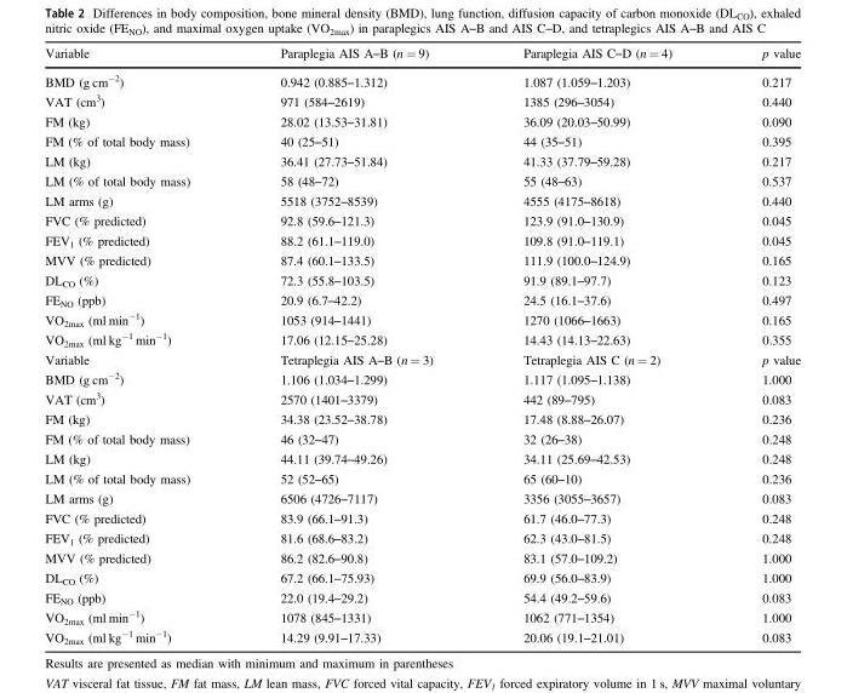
<table><thead><tr><td>Variable</td><td>Paraplegia AIS A–B (n = 9)</td><td>Paraplegia AIS C–D (n = 4)</td><td>p value</td></tr></thead><tbody><tr><td>BMD (g cm<sup>−2</sup>)</td><td>0.942 (0.885–1.312)</td><td>1.087 (1.059–1.203)</td><td>0.217</td></tr><tr><td>VAT (cm<sup>3</sup>)</td><td>971 (584–2619)</td><td>1385 (296–3054)</td><td>0.440</td></tr><tr><td>FM (kg)</td><td>28.02 (13.53–31.81)</td><td>36.09 (20.03–50.99)</td><td>0.090</td></tr><tr><td>FM (% of total body mass)</td><td>40 (25–51)</td><td>44 (35–51)</td><td>0.395</td></tr><tr><td>LM (kg)</td><td>36.41 (27.73–51.84)</td><td>41.33 (37.79–59.28)</td><td>0.217</td></tr><tr><td>LM (% of total body mass)</td><td>58 (48–72)</td><td>55 (48–63)</td><td>0.537</td></tr><tr><td>LM arms (g)</td><td>5518 (3752–8539)</td><td>4555 (4175–8618)</td><td>0.440</td></tr><tr><td>FVC (% predicted)</td><td>92.8 (59.6–121.3)</td><td>123.9 (91.0–130.9)</td><td>0.045</td></tr><tr><td>FEV<sub>1</sub> (% predicted)</td><td>88.2 (61.1–119.0)</td><td>109.8 (91.0–119.1)</td><td>0.045</td></tr><tr><td>MVV (% predicted)</td><td>87.4 (60.1–133.5)</td><td>111.9 (100.0–124.9)</td><td>0.165</td></tr><tr><td>DL<sub>CO</sub> (%)</td><td>72.3 (55.8–103.5)</td><td>91.9 (89.1–97.7)</td><td>0.123</td></tr><tr><td>FE<sub>NO</sub> (ppb)</td><td>20.9 (6.7–42.2)</td><td>24.5 (16.1–37.6)</td><td>0.497</td></tr><tr><td>VO<sub>2max</sub> (ml min<sup>−1</sup>)</td><td>1053 (914–1441)</td><td>1270 (1066–1663)</td><td>0.165</td></tr><tr><td>VO<sub>2max</sub> (ml kg<sup>−1</sup> min<sup>−1</sup>)</td><td>17.06 (12.15–25.28)</td><td>14.43 (14.13–22.63)</td><td>0.355</td></tr><tr><td>Variable</td><td>Tetraplegia AIS A–B (n = 3)</td><td>Tetraplegia AIS C (n = 2)</td><td>p value</td></tr><tr><td>BMD (g cm<sup>−2</sup>)</td><td>1.106 (1.034–1.299)</td><td>1.117 (1.095–1.138)</td><td>1.000</td></tr><tr><td>VAT (cm<sup>3</sup>)</td><td>2570 (1401–3379)</td><td>442 (89–795)</td><td>0.083</td></tr><tr><td>FM (kg)</td><td>34.38 (23.52–38.78)</td><td>17.48 (8.88–26.07)</td><td>0.236</td></tr><tr><td>FM (% of total body mass)</td><td>46 (32–47)</td><td>32 (26–38)</td><td>0.248</td></tr><tr><td>LM (kg)</td><td>44.11 (39.74–49.26)</td><td>34.11 (25.69–42.53)</td><td>0.248</td></tr><tr><td>LM (% of total body mass)</td><td>52 (52–65)</td><td>65 (60–10)</td><td>0.236</td></tr><tr><td>LM arms (g)</td><td>6506 (4726–7117)</td><td>3356 (3055–3657)</td><td>0.083</td></tr><tr><td>FVC (% predicted)</td><td>83.9 (66.1–91.3)</td><td>61.7 (46.0–77.3)</td><td>0.248</td></tr><tr><td>FEV<sub>1</sub> (% predicted)</td><td>81.6 (68.6–83.2)</td><td>62.3 (43.0–81.5)</td><td>0.248</td></tr><tr><td>MVV (% predicted)</td><td>86.2 (82.6–90.8)</td><td>83.1 (57.0–109.2)</td><td>1.000</td></tr><tr><td>DL<sub>CO</sub> (%)</td><td>67.2 (66.1–75.93)</td><td>69.9 (56.0–83.9)</td><td>1.000</td></tr><tr><td>FE<sub>NO</sub> (ppb)</td><td>22.0 (19.4–29.2)</td><td>54.4 (49.2–59.6)</td><td>0.083</td></tr><tr><td>VO<sub>2max</sub> (ml min<sup>−1</sup>)</td><td>1078 (845–1331)</td><td>1062 (771–1354)</td><td>1.000</td></tr><tr><td>VO<sub>2max</sub> (ml kg<sup>−1</sup> min<sup>−1</sup>)</td><td>14.29 (9.91–17.33)</td><td>20.06 (19.1–21.01)</td><td>0.083</td></tr></tbody></table>